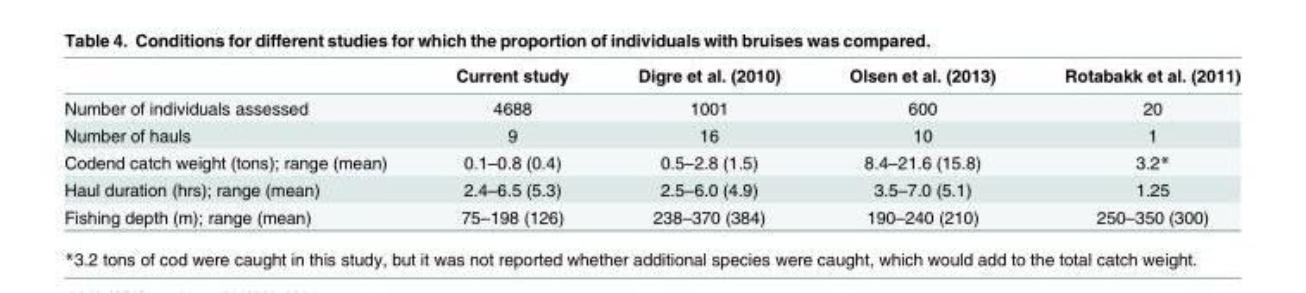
<table><thead><tr><td></td><td>Current study</td><td>Digre et al. (2010)</td><td>Olsen et al. (2013)</td><td>Rotabakk et al. (2011)</td></tr></thead><tbody><tr><td>Number of individuals assessed</td><td>4688</td><td>1001</td><td>600</td><td>20</td></tr><tr><td>Number of hauls</td><td>9</td><td>16</td><td>10</td><td>1</td></tr><tr><td>Codend catch weight (tons); range (mean)</td><td>0.1–0.8 (0.4)</td><td>0.5–2.8 (1.5)</td><td>8.4–21.6 (15.8)</td><td>3.2*</td></tr><tr><td>Haul duration (hrs); range (mean)</td><td>2.4–6.5 (5.3)</td><td>2.5–6.0 (4.9)</td><td>3.5–7.0 (5.1)</td><td>1.25</td></tr><tr><td>Fishing depth (m); range (mean)</td><td>75–198 (126)</td><td>238–370 (384)</td><td>190–240 (210)</td><td>250–350 (300)</td></tr></tbody></table>